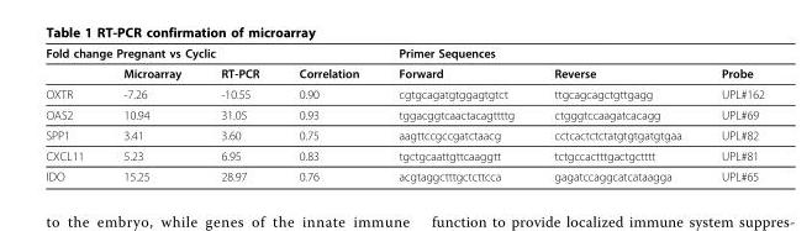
<table><thead><tr><td colspan="4">Fold change Pregnant vs Cyclic</td><td rowspan="2">Primer Sequences Forward</td><td rowspan="2">Reverse</td><td rowspan="2">Probe</td></tr><tr><td></td><td>Microarray</td><td>RT-PCR</td><td>Correlation</td></tr></thead><tbody><tr><td>OXTR</td><td>-7.26</td><td>-10.55</td><td>0.90</td><td>cgtgcagatgtggagtgtct</td><td>ttgcagcagctgttgagg</td><td>UPL#162</td></tr><tr><td>OAS2</td><td>10.94</td><td>31.05</td><td>0.93</td><td>tggacggtcaactacagttttg</td><td>ctgggtccaagatcacagg</td><td>UPL#69</td></tr><tr><td>SPP1</td><td>3.41</td><td>3.60</td><td>0.75</td><td>aagttccgccgatctaacg</td><td>cctcactctctatgtgtgatgtgaa</td><td>UPL#82</td></tr><tr><td>CXCL11</td><td>5.23</td><td>6.95</td><td>0.83</td><td>tgctgcaattgttcaaggtt</td><td>tctgccactttgactgctttt</td><td>UPL#81</td></tr><tr><td>IDO</td><td>15.25</td><td>28.97</td><td>0.76</td><td>acgtaggctttgctcttcca</td><td>gagatccaggcatcataagga</td><td>UPL#65</td></tr></tbody></table>